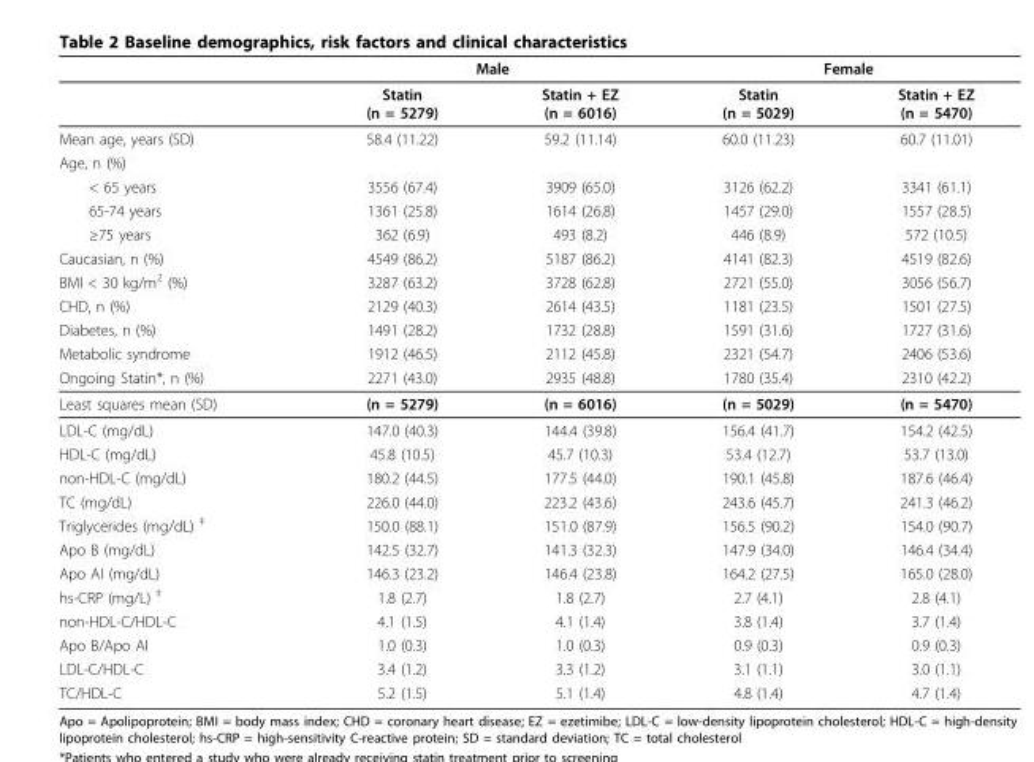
<table><thead><tr><td rowspan="2"></td><td colspan="2">Male</td><td colspan="2">Female</td></tr><tr><td>Statin (n = 5279)</td><td>Statin + EZ (n = 6016)</td><td>Statin (n = 5029)</td><td>Statin + EZ (n = 5470)</td></tr></thead><tbody><tr><td>Mean age, years (SD)</td><td>58.4 (11.22)</td><td>59.2 (11.14)</td><td>60.0 (11.23)</td><td>60.7 (11.01)</td></tr><tr><td colspan="5">Age, n (%)</td></tr><tr><td>&lt; 65 years</td><td>3556 (67.4)</td><td>3909 (65.0)</td><td>3126 (62.2)</td><td>3341 (61.1)</td></tr><tr><td>65-74 years</td><td>1361 (25.8)</td><td>1614 (26.8)</td><td>1457 (29.0)</td><td>1557 (28.5)</td></tr><tr><td>≥75 years</td><td>362 (6.9)</td><td>493 (8.2)</td><td>446 (8.9)</td><td>572 (10.5)</td></tr><tr><td>Caucasian, n (%)</td><td>4549 (86.2)</td><td>5187 (86.2)</td><td>4141 (82.3)</td><td>4519 (82.6)</td></tr><tr><td>BMI &lt; 30 kg/m<sup>2</sup> (%)</td><td>3287 (63.2)</td><td>3728 (62.8)</td><td>2721 (55.0)</td><td>3056 (56.7)</td></tr><tr><td>CHD, n (%)</td><td>2129 (40.3)</td><td>2614 (43.5)</td><td>1181 (23.5)</td><td>1501 (27.5)</td></tr><tr><td>Diabetes, n (%)</td><td>1491 (28.2)</td><td>1732 (28.8)</td><td>1591 (31.6)</td><td>1727 (31.6)</td></tr><tr><td>Metabolic syndrome</td><td>1912 (46.5)</td><td>2112 (45.8)</td><td>2321 (54.7)</td><td>2406 (53.6)</td></tr><tr><td>Ongoing Statin*, n (%)</td><td>2271 (43.0)</td><td>2935 (48.8)</td><td>1780 (35.4)</td><td>2310 (42.2)</td></tr><tr><td>Least squares mean (SD)</td><td>(n = 5279)</td><td>(n = 6016)</td><td>(n = 5029)</td><td>(n = 5470)</td></tr><tr><td>LDL-C (mg/dL)</td><td>147.0 (40.3)</td><td>144.4 (39.8)</td><td>156.4 (41.7)</td><td>154.2 (42.5)</td></tr><tr><td>HDL-C (mg/dL)</td><td>45.8 (10.5)</td><td>45.7 (10.3)</td><td>53.4 (12.7)</td><td>53.7 (13.0)</td></tr><tr><td>non-HDL-C (mg/dL)</td><td>180.2 (44.5)</td><td>177.5 (44.0)</td><td>190.1 (45.8)</td><td>187.6 (46.4)</td></tr><tr><td>TC (mg/dL)</td><td>226.0 (44.0)</td><td>223.2 (43.6)</td><td>243.6 (45.7)</td><td>241.3 (46.2)</td></tr><tr><td>Triglycerides (mg/dL) <sup>‡</sup></td><td>150.0 (88.1)</td><td>151.0 (87.9)</td><td>156.5 (90.2)</td><td>154.0 (90.7)</td></tr><tr><td>Apo B (mg/dL)</td><td>142.5 (32.7)</td><td>141.3 (32.3)</td><td>147.9 (34.0)</td><td>146.4 (34.4)</td></tr><tr><td>Apo AI (mg/dL)</td><td>146.3 (23.2)</td><td>146.4 (23.8)</td><td>164.2 (27.5)</td><td>165.0 (28.0)</td></tr><tr><td>hs-CRP (mg/L) <sup>‡</sup></td><td>1.8 (2.7)</td><td>1.8 (2.7)</td><td>2.7 (4.1)</td><td>2.8 (4.1)</td></tr><tr><td>non-HDL-C/HDL-C</td><td>4.1 (1.5)</td><td>4.1 (1.4)</td><td>3.8 (1.4)</td><td>3.7 (1.4)</td></tr><tr><td>Apo B/Apo AI</td><td>1.0 (0.3)</td><td>1.0 (0.3)</td><td>0.9 (0.3)</td><td>0.9 (0.3)</td></tr><tr><td>LDL-C/HDL-C</td><td>3.4 (1.2)</td><td>3.3 (1.2)</td><td>3.1 (1.1)</td><td>3.0 (1.1)</td></tr><tr><td>TC/HDL-C</td><td>5.2 (1.5)</td><td>5.1 (1.4)</td><td>4.8 (1.4)</td><td>4.7 (1.4)</td></tr></tbody></table>